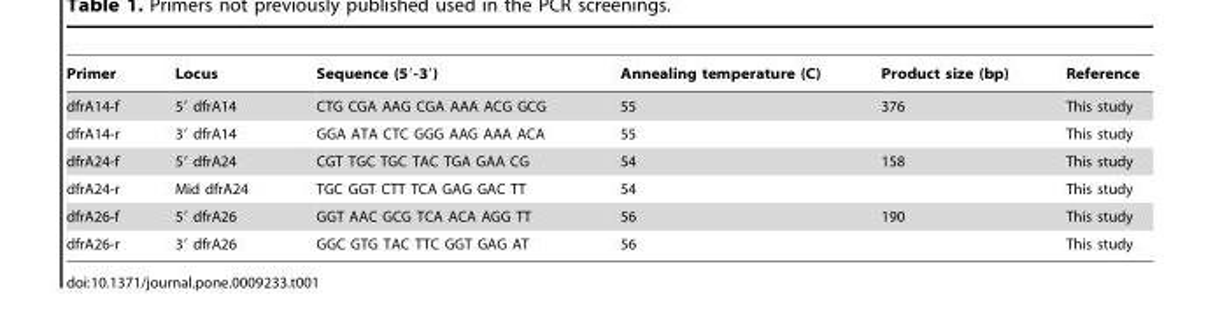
<table><thead><tr><td>Primer</td><td>Locus</td><td>Sequence (5′-3′)</td><td>Annealing temperature (C)</td><td>Product size (bp)</td><td>Reference</td></tr></thead><tbody><tr><td>dfrA14-f</td><td>5′ dfrA14</td><td>CTG CGA AAG CGA AAA ACG GCG</td><td>55</td><td>376</td><td>This study</td></tr><tr><td>dfrA14-r</td><td>3′ dfrA14</td><td>GGA ATA CTC GGG AAG AAA ACA</td><td>55</td><td></td><td>This study</td></tr><tr><td>dfrA24-f</td><td>5′ dfrA24</td><td>CGT TGC TGC TAC TGA GAA CG</td><td>54</td><td>158</td><td>This study</td></tr><tr><td>dfrA24-r</td><td>Mid dfrA24</td><td>TGC GGT CTT TCA GAG GAC TT</td><td>54</td><td></td><td>This study</td></tr><tr><td>dfrA26-f</td><td>5′ dfrA26</td><td>GGT AAC GCG TCA ACA AGG TT</td><td>56</td><td>190</td><td>This study</td></tr><tr><td>dfrA26-r</td><td>3′ dfrA26</td><td>GGC GTG TAC TTC GGT GAG AT</td><td>56</td><td></td><td>This study</td></tr></tbody></table>